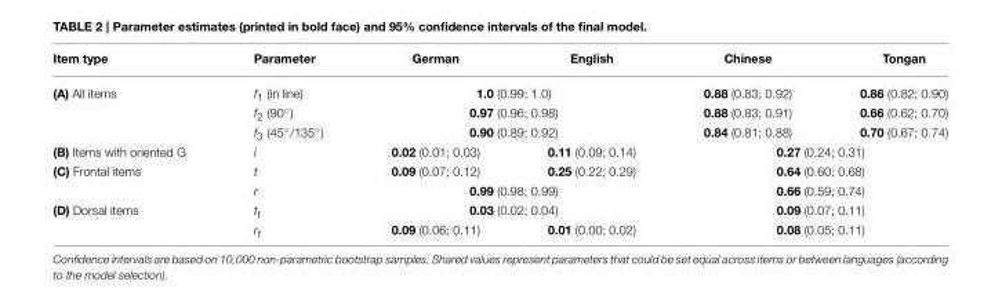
<table><thead><tr><td>Item type</td><td>Parameter</td><td>German</td><td>English</td><td>Chinese</td><td>Tongan</td></tr></thead><tbody><tr><td rowspan="3">(A) All items</td><td>f<sub>1</sub> (in line)</td><td colspan="2">1.0 (0.99; 1.0)</td><td>0.88 (0.83; 0.92)</td><td>0.86 (0.82; 0.90)</td></tr><tr><td>f2 (90◦)</td><td colspan="2">0.97 (0.96; 0.98)</td><td>0.88 (0.83; 0.91)</td><td>0.66 (0.62; 0.70)</td></tr><tr><td>f3 (45◦/135◦)</td><td colspan="2">0.90 (0.89; 0.92)</td><td>0.84 (0.81; 0.88)</td><td>0.70 (0.67; 0.74)</td></tr><tr><td>(B) Items with oriented G</td><td>i</td><td>0.02 (0.01; 0.03)</td><td>0.11 (0.09; 0.14)</td><td colspan="2">0.27 (0.24; 0.31)</td></tr><tr><td rowspan="2">(C) Frontal items</td><td>t</td><td>0.09 (0.07; 0.12)</td><td>0.25 (0.22; 0.29)</td><td colspan="2">0.64 (0.60; 0.68)</td></tr><tr><td>r</td><td colspan="2">0.99 (0.98; 0.99)</td><td colspan="2">0.66 (0.59; 0.74)</td></tr><tr><td rowspan="2">(D) Dorsal items</td><td>tt</td><td colspan="2">0.03 (0.02; 0.04)</td><td colspan="2">0.09 (0.07; 0.11)</td></tr><tr><td>rt</td><td>0.09 (0.06; 0.11)</td><td>0.01 (0.00; 0.02)</td><td colspan="2">0.08 (0.05; 0.11)</td></tr></tbody></table>